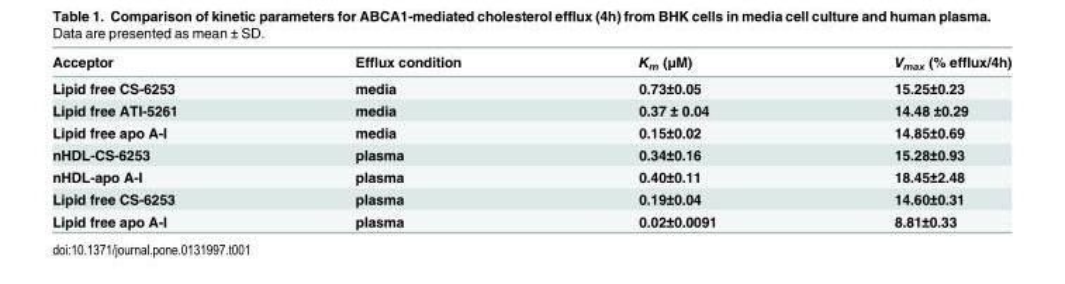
<table><thead><tr><td>Acceptor</td><td>Efflux condition</td><td>K<sub>m</sub> (μM)</td><td>V<sub>max</sub> (% efflux/4h)</td></tr></thead><tbody><tr><td>Lipid free CS-6253</td><td>media</td><td>0.73±0.05</td><td>15.25±0.23</td></tr><tr><td>Lipid free ATI-5261</td><td>media</td><td>0.37 ± 0.04</td><td>14.48 ±0.29</td></tr><tr><td>Lipid free apo A-I</td><td>media</td><td>0.15±0.02</td><td>14.85±0.69</td></tr><tr><td>nHDL-CS-6253</td><td>plasma</td><td>0.34±0.16</td><td>15.28±0.93</td></tr><tr><td>nHDL-apo A-I</td><td>plasma</td><td>0.40±0.11</td><td>18.45±2.48</td></tr><tr><td>Lipid free CS-6253</td><td>plasma</td><td>0.19±0.04</td><td>14.60±0.31</td></tr><tr><td>Lipid free apo A-I</td><td>plasma</td><td>0.02±0.0091</td><td>8.81±0.33</td></tr></tbody></table>